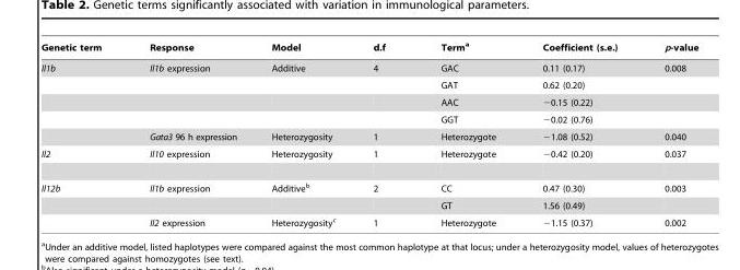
<table><thead><tr><td>Genetic term</td><td>Response</td><td>Model</td><td>d.f</td><td>Term<sup>a</sup></td><td>Coefficient (s.e.)</td><td>p-value</td></tr></thead><tbody><tr><td rowspan="5">Il1b</td><td>Il1b expression</td><td>Additive</td><td>4</td><td>GAC</td><td>0.11 (0.17)</td><td>0.008</td></tr><tr><td></td><td></td><td></td><td>GAT</td><td>0.62 (0.20)</td><td></td></tr><tr><td></td><td></td><td></td><td>AAC</td><td>−0.15 (0.22)</td><td></td></tr><tr><td></td><td></td><td></td><td>GGT</td><td>−0.02 (0.76)</td><td></td></tr><tr><td>Gata3 96 h expression</td><td>Heterozygosity</td><td>1</td><td>Heterozygote</td><td>−1.08 (0.52)</td><td>0.040</td></tr><tr><td>Il2</td><td>Il10 expression</td><td>Heterozygosity</td><td>1</td><td>Heterozygote</td><td>−0.42 (0.20)</td><td>0.037</td></tr><tr><td rowspan="3">Il12b</td><td>Il1b expression</td><td>Additive<sup>b</sup></td><td>2</td><td>CC</td><td>0.47 (0.30)</td><td>0.003</td></tr><tr><td></td><td></td><td></td><td>GT</td><td>1.56 (0.49)</td><td></td></tr><tr><td>Il2 expression</td><td>Heterozygosity<sup>c</sup></td><td>1</td><td>Heterozygote</td><td>−1.15 (0.37)</td><td>0.002</td></tr></tbody></table>